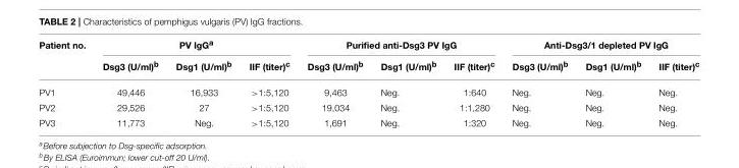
<table><thead><tr><td rowspan="2">Patient no.</td><td colspan="3">PV IgG<sup>a</sup></td><td colspan="3">Purified anti-Dsg3 PV IgG</td><td colspan="3">Anti-Dsg3/1 depleted PV IgG</td></tr><tr><td>Dsg3 (U/ml)<sup>b</sup></td><td>Dsg1 (U/ml)<sup>b</sup></td><td>IIF (titer)<sup>c</sup></td><td>Dsg3 (U/ml)<sup>b</sup></td><td>Dsg1 (U/ml)<sup>b</sup></td><td>IIF (titer)<sup>c</sup></td><td>Dsg3 (U/ml)<sup>b</sup></td><td>Dsg1 (U/ml)<sup>b</sup></td><td>IIF (titer)<sup>c</sup></td></tr></thead><tbody><tr><td>PV1</td><td>49,446</td><td>16,933</td><td>&gt;1:5,120</td><td>9,463</td><td>Neg.</td><td>1:640</td><td>Neg.</td><td>Neg.</td><td>Neg.</td></tr><tr><td>PV2</td><td>29,526</td><td>27</td><td>&gt;1:5,120</td><td>19,034</td><td>Neg.</td><td>1:1,280</td><td>Neg.</td><td>Neg.</td><td>Neg.</td></tr><tr><td>PV3</td><td>11,773</td><td>Neg.</td><td>&gt;1:5,120</td><td>1,691</td><td>Neg.</td><td>1:320</td><td>Neg.</td><td>Neg.</td><td>Neg.</td></tr></tbody></table>